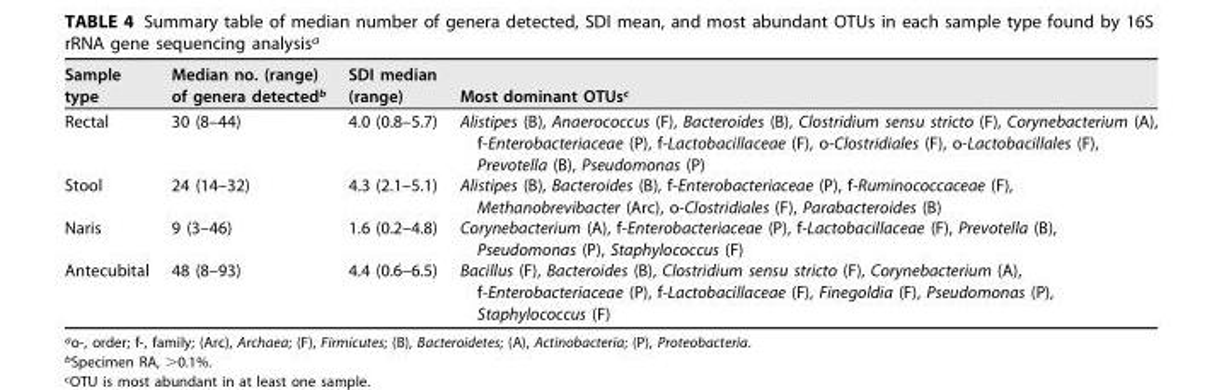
<table><thead><tr><td>Sample type</td><td>Median no. (range) of genera detected<sup>b</sup></td><td>SDI median (range)</td><td>Most dominant OTUs<sup>c</sup></td></tr></thead><tbody><tr><td>Rectal</td><td>30 (8–44)</td><td>4.0 (0.8–5.7)</td><td>Alistipes (B), Anaerococcus (F), Bacteroides (B), Clostridium sensu stricto (F), Corynebacterium (A), f-Enterobacteriaceae (P), f-Lactobacillaceae (F), o-Clostridiales (F), o-Lactobacillales (F), Prevotella (B), Pseudomonas (P)</td></tr><tr><td>Stool</td><td>24 (14–32)</td><td>4.3 (2.1–5.1)</td><td>Alistipes (B), Bacteroides (B), f-Enterobacteriaceae (P), f-Ruminococcaceae (F), Methanobrevibacter (Arc), o-Clostridiales (F), Parabacteroides (B)</td></tr><tr><td>Naris</td><td>9 (3–46)</td><td>1.6 (0.2–4.8)</td><td>Corynebacterium (A), f-Enterobacteriaceae (P), f-Lactobacillaceae (F), Prevotella (B), Pseudomonas (P), Staphylococcus (F)</td></tr><tr><td>Antecubital</td><td>48 (8–93)</td><td>4.4 (0.6–6.5)</td><td>Bacillus (F), Bacteroides (B), Clostridium sensu stricto (F), Corynebacterium (A), f-Enterobacteriaceae (P), f-Lactobacillaceae (F), Finegoldia (F), Pseudomonas (P), Staphylococcus (F)</td></tr></tbody></table>